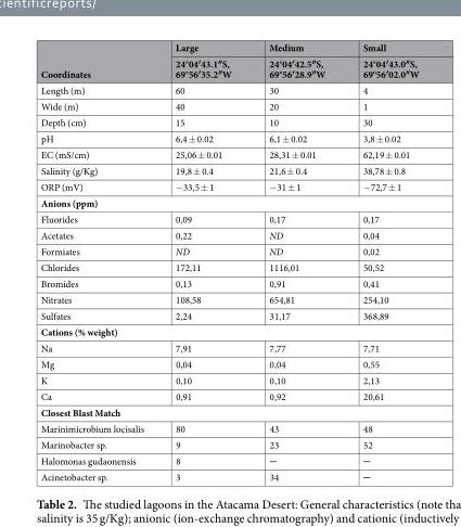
<table><thead><tr><td rowspan="2">Coordinates</td><td rowspan="2">Large 24°04′43.1″S, 69°56′35.2″W</td><td rowspan="2">Medium 24°04′42.5″S, 69°56′28.9″W</td><td rowspan="2">Small 24°04′43.0″S, 69°56′02.0″W</td></tr><tr></tr></thead><tbody><tr><td>Length (m)</td><td>60</td><td>30</td><td>4</td></tr><tr><td>Wide (m)</td><td>40</td><td>20</td><td>1</td></tr><tr><td>Depth (cm)</td><td>15</td><td>10</td><td>30</td></tr><tr><td>pH</td><td>6,4 ± 0.02</td><td>6,1 ± 0.02</td><td>3,8 ± 0.02</td></tr><tr><td>EC (mS/cm)</td><td>25,06 ± 0.01</td><td>28,31 ± 0.01</td><td>62,19 ± 0.01</td></tr><tr><td>Salinity (g/Kg)</td><td>19,8 ± 0.4</td><td>21,6 ± 0.4</td><td>38,78 ± 0.8</td></tr><tr><td>ORP (mV)</td><td>−33,5 ± 1</td><td>−31 ± 1</td><td>−72,7 ± 1</td></tr><tr><td colspan="4">Anions (ppm)</td></tr><tr><td>Fluorides</td><td>0,09</td><td>0,17</td><td>0,17</td></tr><tr><td>Acetates</td><td>0,22</td><td>ND</td><td>0,04</td></tr><tr><td>Formiates</td><td>ND</td><td>ND</td><td>0,02</td></tr><tr><td>Chlorides</td><td>172,11</td><td>1116,01</td><td>50,52</td></tr><tr><td>Bromides</td><td>0,13</td><td>0,91</td><td>0,41</td></tr><tr><td>Nitrates</td><td>108,58</td><td>654,81</td><td>254,10</td></tr><tr><td>Sulfates</td><td>2,24</td><td>31,17</td><td>368,89</td></tr><tr><td colspan="4">Cations (% weight)</td></tr><tr><td>Na</td><td>7,91</td><td>7,77</td><td>7,71</td></tr><tr><td>Mg</td><td>0,04</td><td>0,04</td><td>0,55</td></tr><tr><td>K</td><td>0,10</td><td>0,10</td><td>2,13</td></tr><tr><td>Ca</td><td>0,91</td><td>0,92</td><td>20,61</td></tr><tr><td colspan="4">Closest Blast Match</td></tr><tr><td>Marinimicrobium locisalis</td><td>80</td><td>43</td><td>48</td></tr><tr><td>Marinobacter sp.</td><td>9</td><td>23</td><td>52</td></tr><tr><td>Halomonas gudaonensis</td><td>8</td><td>─</td><td>─</td></tr><tr><td>Acinetobacter sp.</td><td>3</td><td>34</td><td>─</td></tr></tbody></table>